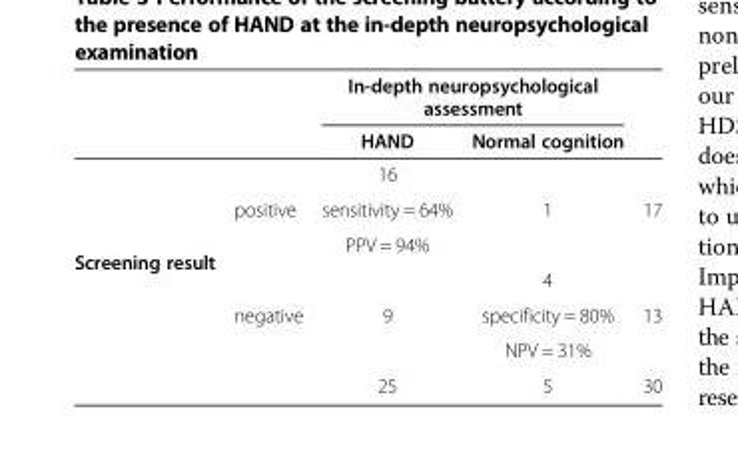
<table><thead><tr><td rowspan="2"></td><td rowspan="2"></td><td colspan="2">In-depth neuropsychological assessment</td><td rowspan="2"></td></tr><tr><td>HAND</td><td>Normal cognition</td></tr></thead><tbody><tr><td rowspan="7">Screening result</td><td rowspan="3">positive</td><td>16</td><td rowspan="3">1</td><td rowspan="3">17</td></tr><tr><td>sensitivity = 64%</td></tr><tr><td>PPV = 94%</td></tr><tr><td rowspan="3">negative</td><td rowspan="3">9</td><td>4</td><td rowspan="3">13</td></tr><tr><td>specificity = 80%</td></tr><tr><td>NPV = 31%</td></tr><tr><td></td><td>25</td><td>5</td><td>30</td></tr></tbody></table>